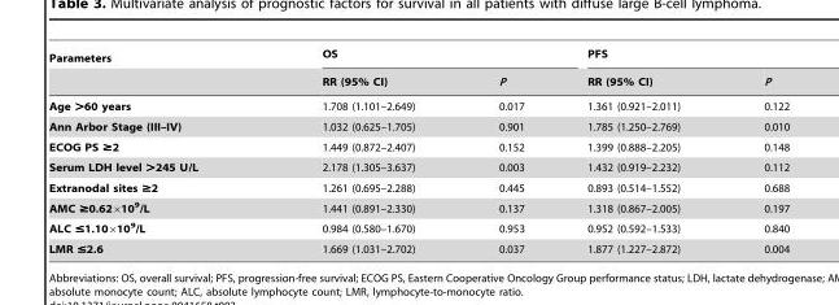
<table><thead><tr><td rowspan="2">Parameters</td><td colspan="2">OS</td><td colspan="2">PFS</td></tr><tr><td>RR (95% CI)</td><td>P</td><td>RR (95% CI)</td><td>P</td></tr></thead><tbody><tr><td>Age &gt;60 years</td><td>1.708 (1.101–2.649)</td><td>0.017</td><td>1.361 (0.921–2.011)</td><td>0.122</td></tr><tr><td>Ann Arbor Stage (III–IV)</td><td>1.032 (0.625–1.705)</td><td>0.901</td><td>1.785 (1.250–2.769)</td><td>0.010</td></tr><tr><td>ECOG PS ≥2</td><td>1.449 (0.872–2.407)</td><td>0.152</td><td>1.399 (0.888–2.205)</td><td>0.148</td></tr><tr><td>Serum LDH level &gt;245 U/L</td><td>2.178 (1.305–3.637)</td><td>0.003</td><td>1.432 (0.919–2.232)</td><td>0.112</td></tr><tr><td>Extranodal sites ≥2</td><td>1.261 (0.695–2.288)</td><td>0.445</td><td>0.893 (0.514–1.552)</td><td>0.688</td></tr><tr><td>AMC ≥0.62×10<sup>9</sup>/L</td><td>1.441 (0.891–2.330)</td><td>0.137</td><td>1.318 (0.867–2.005)</td><td>0.197</td></tr><tr><td>ALC ≤1.10×10<sup>9</sup>/L</td><td>0.984 (0.580–1.670)</td><td>0.953</td><td>0.952 (0.592–1.533)</td><td>0.840</td></tr><tr><td>LMR ≤2.6</td><td>1.669 (1.031–2.702)</td><td>0.037</td><td>1.877 (1.227–2.872)</td><td>0.004</td></tr></tbody></table>